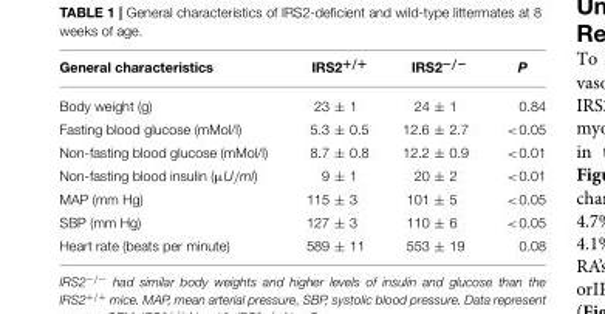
<table><thead><tr><td>General characteristics</td><td>IRS2<sup>+/+</sup></td><td>IRS2<sup>−/−</sup></td><td>P</td></tr></thead><tbody><tr><td>Body weight (g)</td><td>23 ± 1</td><td>24 ± 1</td><td>0.84</td></tr><tr><td>Fasting blood glucose (mMol/l)</td><td>5.3 ± 0.5</td><td>12.6 ± 2.7</td><td>&lt;0.05</td></tr><tr><td>Non-fasting blood glucose (mMol/l)</td><td>8.7 ± 0.8</td><td>12.2 ± 0.9</td><td>&lt;0.01</td></tr><tr><td>Non-fasting blood insulin (µU/ml)</td><td>9 ± 1</td><td>20 ± 2</td><td>&lt;0.01</td></tr><tr><td>MAP (mm Hg)</td><td>115 ± 3</td><td>101 ± 5</td><td>&lt;0.05</td></tr><tr><td>SBP (mm Hg)</td><td>127 ± 3</td><td>110 ± 6</td><td>&lt;0.05</td></tr><tr><td>Heart rate (beats per minute)</td><td>589 ± 11</td><td>553 ± 19</td><td>0.08</td></tr></tbody></table>